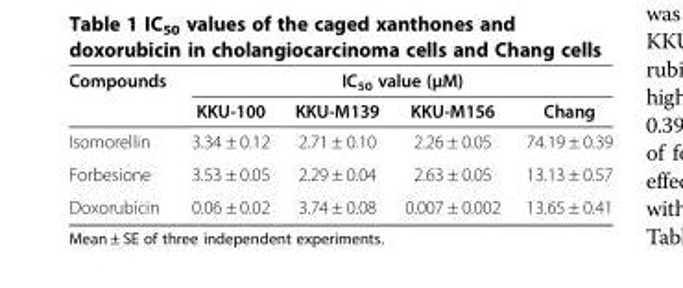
<table><thead><tr><td rowspan="2">Compounds</td><td colspan="4">IC<sub>50</sub> value (μM)</td></tr><tr><td>KKU-100</td><td>KKU-M139</td><td>KKU-M156</td><td>Chang</td></tr></thead><tbody><tr><td>Isomorellin</td><td>3.34 ± 0.12</td><td>2.71 ± 0.10</td><td>2.26 ± 0.05</td><td>74.19 ± 0.39</td></tr><tr><td>Forbesione</td><td>3.53 ± 0.05</td><td>2.29 ± 0.04</td><td>2.63 ± 0.05</td><td>13.13 ± 0.57</td></tr><tr><td>Doxorubicin</td><td>0.06 ± 0.02</td><td>3.74 ± 0.08</td><td>0.007 ± 0.002</td><td>13.65 ± 0.41</td></tr></tbody></table>